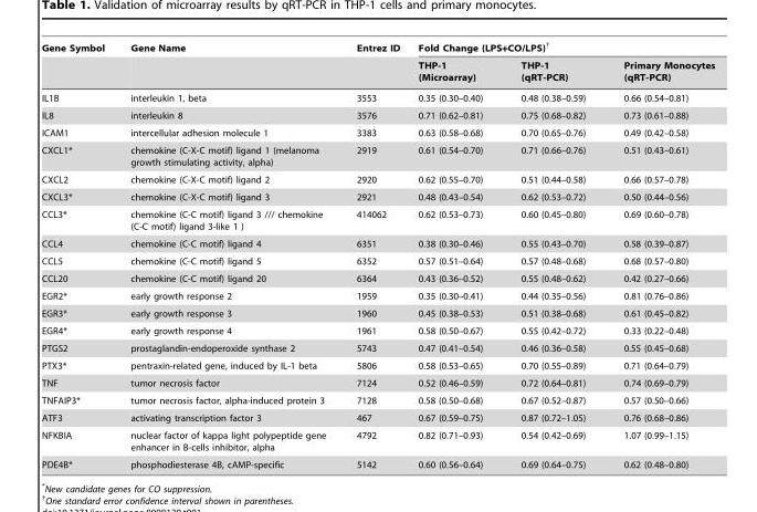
<table><thead><tr><td rowspan="2">Gene Symbol</td><td rowspan="2">Gene Name</td><td rowspan="2">Entrez ID</td><td colspan="3">Fold Change (LPS+CO/LPS)†</td></tr><tr><td>THP-1 (Microarray)</td><td>THP-1 (qRT-PCR)</td><td>Primary Monocytes (qRT-PCR)</td></tr></thead><tbody><tr><td>IL1B</td><td>interleukin 1, beta</td><td>3553</td><td>0.35 (0.30–0.40)</td><td>0.48 (0.38–0.59)</td><td>0.66 (0.54–0.81)</td></tr><tr><td>IL8</td><td>interleukin 8</td><td>3576</td><td>0.71 (0.62–0.81)</td><td>0.75 (0.68–0.82)</td><td>0.73 (0.61–0.88)</td></tr><tr><td>ICAM1</td><td>intercellular adhesion molecule 1</td><td>3383</td><td>0.63 (0.58–0.68)</td><td>0.70 (0.65–0.76)</td><td>0.49 (0.42–0.58)</td></tr><tr><td>CXCL1*</td><td>chemokine (C-X-C motif) ligand 1 (melanoma growth stimulating activity, alpha)</td><td>2919</td><td>0.61 (0.54–0.70)</td><td>0.71 (0.66–0.76)</td><td>0.51 (0.43–0.61)</td></tr><tr><td>CXCL2</td><td>chemokine (C-X-C motif) ligand 2</td><td>2920</td><td>0.62 (0.55–0.70)</td><td>0.51 (0.44–0.58)</td><td>0.66 (0.57–0.78)</td></tr><tr><td>CXCL3*</td><td>chemokine (C-X-C motif) ligand 3</td><td>2921</td><td>0.48 (0.43–0.54)</td><td>0.62 (0.53–0.72)</td><td>0.50 (0.44–0.56)</td></tr><tr><td>CCL3*</td><td>chemokine (C-C motif) ligand 3 /// chemokine (C-C motif) ligand 3-like 1 )</td><td>414062</td><td>0.62 (0.53–0.73)</td><td>0.60 (0.45–0.80)</td><td>0.69 (0.60–0.78)</td></tr><tr><td>CCL4</td><td>chemokine (C-C motif) ligand 4</td><td>6351</td><td>0.38 (0.30–0.46)</td><td>0.55 (0.43–0.70)</td><td>0.58 (0.39–0.87)</td></tr><tr><td>CCL5</td><td>chemokine (C-C motif) ligand 5</td><td>6352</td><td>0.57 (0.51–0.64)</td><td>0.57 (0.48–0.68)</td><td>0.68 (0.57–0.80)</td></tr><tr><td>CCL20</td><td>chemokine (C-C motif) ligand 20</td><td>6364</td><td>0.43 (0.36–0.52)</td><td>0.55 (0.48–0.62)</td><td>0.42 (0.27–0.66)</td></tr><tr><td>EGR2*</td><td>early growth response 2</td><td>1959</td><td>0.35 (0.30–0.41)</td><td>0.44 (0.35–0.56)</td><td>0.81 (0.76–0.86)</td></tr><tr><td>EGR3*</td><td>early growth response 3</td><td>1960</td><td>0.45 (0.38–0.53)</td><td>0.51 (0.38–0.68)</td><td>0.61 (0.45–0.82)</td></tr><tr><td>EGR4*</td><td>early growth response 4</td><td>1961</td><td>0.58 (0.50–0.67)</td><td>0.55 (0.42–0.72)</td><td>0.33 (0.22–0.48)</td></tr><tr><td>PTGS2</td><td>prostaglandin-endoperoxide synthase 2</td><td>5743</td><td>0.47 (0.41–0.54)</td><td>0.46 (0.36–0.58)</td><td>0.55 (0.45–0.68)</td></tr><tr><td>PTX3*</td><td>pentraxin-related gene, induced by IL-1 beta</td><td>5806</td><td>0.58 (0.53–0.65)</td><td>0.70 (0.55–0.89)</td><td>0.71 (0.64–0.79)</td></tr><tr><td>TNF</td><td>tumor necrosis factor</td><td>7124</td><td>0.52 (0.46–0.59)</td><td>0.72 (0.64–0.81)</td><td>0.74 (0.69–0.79)</td></tr><tr><td>TNFAIP3*</td><td>tumor necrosis factor, alpha-induced protein 3</td><td>7128</td><td>0.58 (0.50–0.68)</td><td>0.67 (0.52–0.87)</td><td>0.57 (0.50–0.66)</td></tr><tr><td>ATF3</td><td>activating transcription factor 3</td><td>467</td><td>0.67 (0.59–0.75)</td><td>0.87 (0.72–1.05)</td><td>0.76 (0.68–0.86)</td></tr><tr><td>NFKBIA</td><td>nuclear factor of kappa light polypeptide gene enhancer in B-cells inhibitor, alpha</td><td>4792</td><td>0.82 (0.71–0.93)</td><td>0.54 (0.42–0.69)</td><td>1.07 (0.99–1.15)</td></tr><tr><td>PDE4B*</td><td>phosphodiesterase 4B, cAMP-specific</td><td>5142</td><td>0.60 (0.56–0.64)</td><td>0.69 (0.64–0.75)</td><td>0.62 (0.48–0.80)</td></tr></tbody></table>